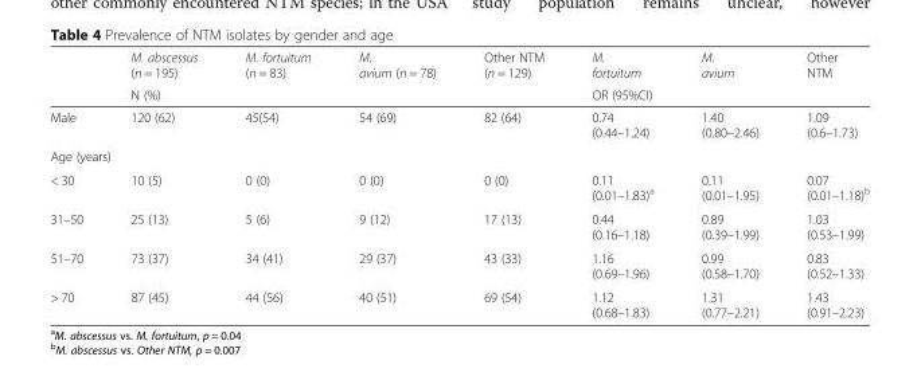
<table><thead><tr><td rowspan="2"></td><td>M. abscessus (n = 195)</td><td>M. fortuitum (n = 83)</td><td>M. avium (n = 78)</td><td>Other NTM (n = 129)</td><td>M. fortuitum</td><td>M. avium</td><td>Other NTM</td></tr><tr><td colspan="4">N (%)</td><td colspan="3">OR (95%CI)</td></tr></thead><tbody><tr><td>Male</td><td>120 (62)</td><td>45(54)</td><td>54 (69)</td><td>82 (64)</td><td>0.74 (0.44–1.24)</td><td>1.40 (0.80–2.46)</td><td>1.09 (0.6–1.73)</td></tr><tr><td colspan="8">Age (years)</td></tr><tr><td>&lt; 30</td><td>10 (5)</td><td>0 (0)</td><td>0 (0)</td><td>0 (0)</td><td>0.11 (0.01–1.83)<sup>a</sup></td><td>0.11 (0.01–1.95)</td><td>0.07 (0.01–1.18)<sup>b</sup></td></tr><tr><td>31–50</td><td>25 (13)</td><td>5 (6)</td><td>9 (12)</td><td>17 (13)</td><td>0.44 (0.16–1.18)</td><td>0.89 (0.39–1.99)</td><td>1.03 (0.53–1.99)</td></tr><tr><td>51–70</td><td>73 (37)</td><td>34 (41)</td><td>29 (37)</td><td>43 (33)</td><td>1.16 (0.69–1.96)</td><td>0.99 (0.58–1.70)</td><td>0.83 (0.52–1.33)</td></tr><tr><td>&gt; 70</td><td>87 (45)</td><td>44 (56)</td><td>40 (51)</td><td>69 (54)</td><td>1.12 (0.68–1.83)</td><td>1.31 (0.77–2.21)</td><td>1.43 (0.91–2.23)</td></tr></tbody></table>